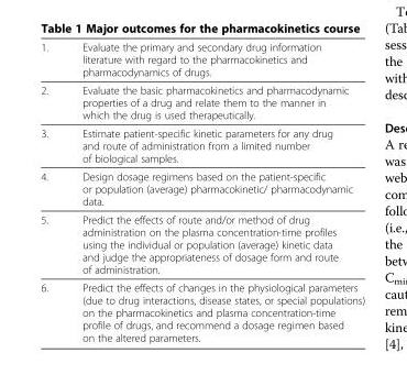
<table><thead><tr><td>1.</td><td>Evaluate the primary and secondary drug information literature with regard to the pharmacokinetics and pharmacodynamics of drugs.</td></tr></thead><tbody><tr><td>2.</td><td>Evaluate the basic pharmacokinetics and pharmacodynamic properties of a drug and relate them to the manner in which the drug is used therapeutically.</td></tr><tr><td>3.</td><td>Estimate patient-specific kinetic parameters for any drug and route of administration from a limited number of biological samples.</td></tr><tr><td>4.</td><td>Design dosage regimens based on the patient-specific or population (average) pharmacokinetic/ pharmacodynamic data.</td></tr><tr><td>5.</td><td>Predict the effects of route and/or method of drug administration on the plasma concentration-time profiles using the individual or population (average) kinetic data and judge the appropriateness of dosage form and route of administration.</td></tr><tr><td>6.</td><td>Predict the effects of changes in the physiological parameters (due to drug interactions, disease states, or special populations) on the pharmacokinetics and plasma concentration-time profile of drugs, and recommend a dosage regimen based on the altered parameters.</td></tr></tbody></table>